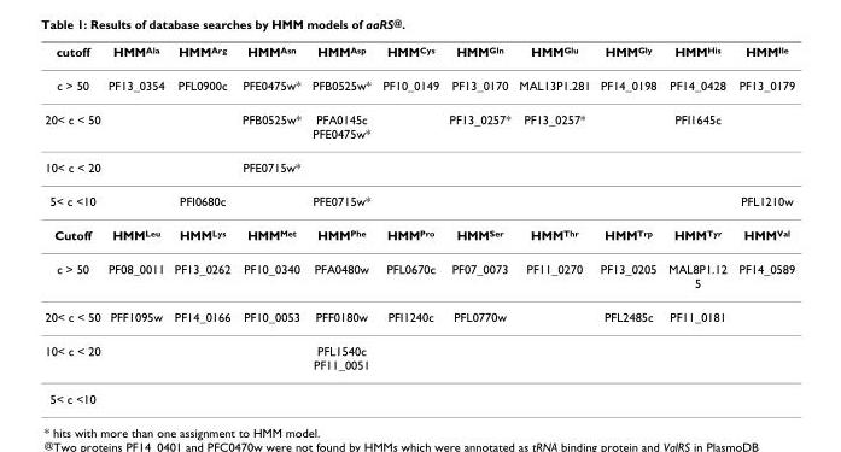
<table><thead><tr><td>cutoff</td><td>HMM<sup>Ala</sup></td><td>HMM<sup>Arg</sup></td><td>HMM<sup>Asn</sup></td><td>HMM<sup>Asp</sup></td><td>HMM<sup>Cys</sup></td><td>HMM<sup>Gln</sup></td><td>HMM<sup>Glu</sup></td><td>HMM<sup>Gly</sup></td><td>HMM<sup>His</sup></td><td>HMM<sup>Ile</sup></td></tr></thead><tbody><tr><td>c &gt; 50</td><td>PF13_0354</td><td>PFL0900c</td><td>PFE0475w*</td><td>PFB0525w*</td><td>PF10_0149</td><td>PF13_0170</td><td>MAL13P1.281</td><td>PF14_0198</td><td>PF14_0428</td><td>PF13_0179</td></tr><tr><td>20&lt; c &lt; 50</td><td></td><td></td><td>PFB0525w*</td><td>PFA0145c PFE0475w*</td><td></td><td>PF13_0257*</td><td>PF13_0257*</td><td></td><td>PFI1645c</td><td></td></tr><tr><td>10&lt; c &lt; 20</td><td></td><td></td><td>PFE0715w*</td><td></td><td></td><td></td><td></td><td></td><td></td><td></td></tr><tr><td>5&lt; c &lt;10</td><td></td><td>PFI0680c</td><td></td><td>PFE0715w*</td><td></td><td></td><td></td><td></td><td></td><td>PFL1210w</td></tr><tr><td>Cutoff</td><td>HMM<sup>Leu</sup></td><td>HMM<sup>Lys</sup></td><td>HMM<sup>Met</sup></td><td>HMM<sup>Phe</sup></td><td>HMM<sup>Pro</sup></td><td>HMM<sup>Ser</sup></td><td>HMM<sup>Thr</sup></td><td>HMM<sup>Trp</sup></td><td>HMM<sup>Tyr</sup></td><td>HMM<sup>Val</sup></td></tr><tr><td>c &gt; 50</td><td>PF08_0011</td><td>PF13_0262</td><td>PF10_0340</td><td>PFA0480w</td><td>PFL0670c</td><td>PF07_0073</td><td>PF11_0270</td><td>PF13_0205</td><td>MAL8P1.12 5</td><td>PF14_0589</td></tr><tr><td>20&lt; c &lt; 50</td><td>PFF1095w</td><td>PF14_0166</td><td>PF10_0053</td><td>PFF0180w</td><td>PFI1240c</td><td>PFL0770w</td><td></td><td>PFL2485c</td><td>PF11_0181</td><td></td></tr><tr><td>10&lt; c &lt; 20</td><td></td><td></td><td></td><td>PFL1540c PF11_0051</td><td></td><td></td><td></td><td></td><td></td><td></td></tr><tr><td>5&lt; c &lt;10</td><td></td><td></td><td></td><td></td><td></td><td></td><td></td><td></td><td></td><td></td></tr></tbody></table>